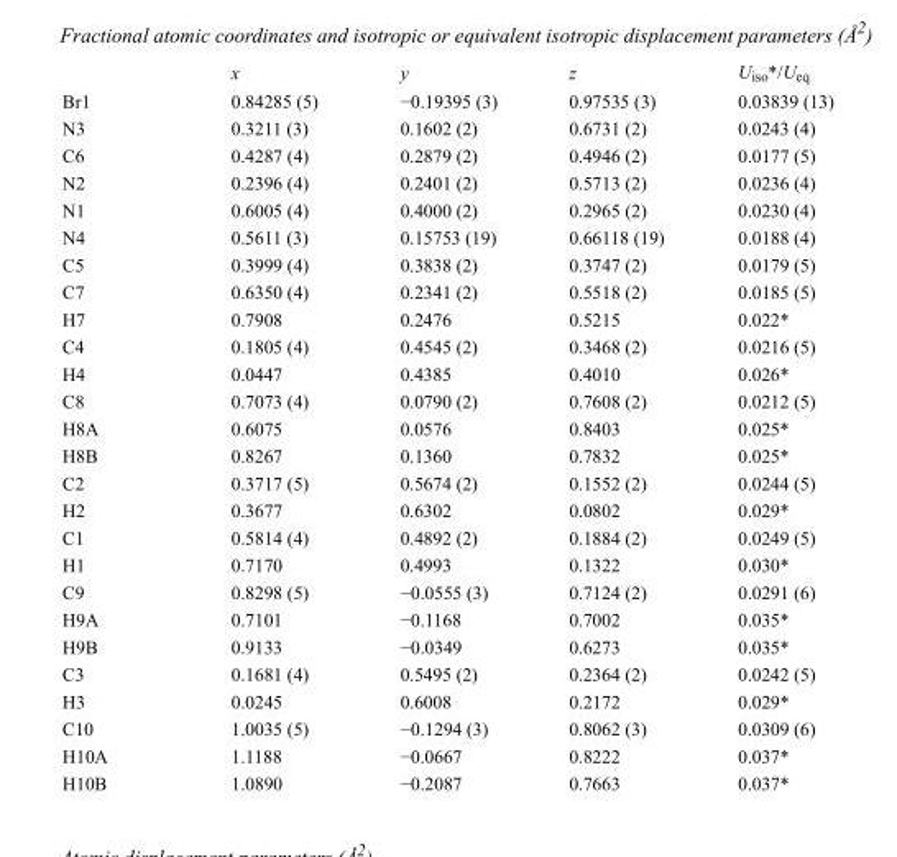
<table><thead><tr><td></td><td>x</td><td>y</td><td>z</td><td>U<sub>iso</sub>*/U<sub>eq</sub></td></tr></thead><tbody><tr><td>Br1</td><td>0.84285 (5)</td><td>−0.19395 (3)</td><td>0.97535 (3)</td><td>0.03839 (13)</td></tr><tr><td>N3</td><td>0.3211 (3)</td><td>0.1602 (2)</td><td>0.6731 (2)</td><td>0.0243 (4)</td></tr><tr><td>C6</td><td>0.4287 (4)</td><td>0.2879 (2)</td><td>0.4946 (2)</td><td>0.0177 (5)</td></tr><tr><td>N2</td><td>0.2396 (4)</td><td>0.2401 (2)</td><td>0.5713 (2)</td><td>0.0236 (4)</td></tr><tr><td>N1</td><td>0.6005 (4)</td><td>0.4000 (2)</td><td>0.2965 (2)</td><td>0.0230 (4)</td></tr><tr><td>N4</td><td>0.5611 (3)</td><td>0.15753 (19)</td><td>0.66118 (19)</td><td>0.0188 (4)</td></tr><tr><td>C5</td><td>0.3999 (4)</td><td>0.3838 (2)</td><td>0.3747 (2)</td><td>0.0179 (5)</td></tr><tr><td>C7</td><td>0.6350 (4)</td><td>0.2341 (2)</td><td>0.5518 (2)</td><td>0.0185 (5)</td></tr><tr><td>H7</td><td>0.7908</td><td>0.2476</td><td>0.5215</td><td>0.022*</td></tr><tr><td>C4</td><td>0.1805 (4)</td><td>0.4545 (2)</td><td>0.3468 (2)</td><td>0.0216 (5)</td></tr><tr><td>H4</td><td>0.0447</td><td>0.4385</td><td>0.4010</td><td>0.026*</td></tr><tr><td>C8</td><td>0.7073 (4)</td><td>0.0790 (2)</td><td>0.7608 (2)</td><td>0.0212 (5)</td></tr><tr><td>H8A</td><td>0.6075</td><td>0.0576</td><td>0.8403</td><td>0.025*</td></tr><tr><td>H8B</td><td>0.8267</td><td>0.1360</td><td>0.7832</td><td>0.025*</td></tr><tr><td>C2</td><td>0.3717 (5)</td><td>0.5674 (2)</td><td>0.1552 (2)</td><td>0.0244 (5)</td></tr><tr><td>H2</td><td>0.3677</td><td>0.6302</td><td>0.0802</td><td>0.029*</td></tr><tr><td>C1</td><td>0.5814 (4)</td><td>0.4892 (2)</td><td>0.1884 (2)</td><td>0.0249 (5)</td></tr><tr><td>H1</td><td>0.7170</td><td>0.4993</td><td>0.1322</td><td>0.030*</td></tr><tr><td>C9</td><td>0.8298 (5)</td><td>−0.0555 (3)</td><td>0.7124 (2)</td><td>0.0291 (6)</td></tr><tr><td>H9A</td><td>0.7101</td><td>−0.1168</td><td>0.7002</td><td>0.035*</td></tr><tr><td>H9B</td><td>0.9133</td><td>−0.0349</td><td>0.6273</td><td>0.035*</td></tr><tr><td>C3</td><td>0.1681 (4)</td><td>0.5495 (2)</td><td>0.2364 (2)</td><td>0.0242 (5)</td></tr><tr><td>H3</td><td>0.0245</td><td>0.6008</td><td>0.2172</td><td>0.029*</td></tr><tr><td>C10</td><td>1.0035 (5)</td><td>−0.1294 (3)</td><td>0.8062 (3)</td><td>0.0309 (6)</td></tr><tr><td>H10A</td><td>1.1188</td><td>−0.0667</td><td>0.8222</td><td>0.037*</td></tr><tr><td>H10B</td><td>1.0890</td><td>−0.2087</td><td>0.7663</td><td>0.037*</td></tr></tbody></table>